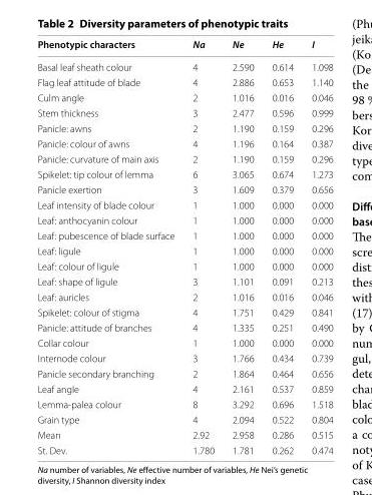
<table><thead><tr><td>Phenotypic characters</td><td>Na</td><td>Ne</td><td>He</td><td>I</td></tr></thead><tbody><tr><td>Basal leaf sheath colour</td><td>4</td><td>2.590</td><td>0.614</td><td>1.098</td></tr><tr><td>Flag leaf attitude of blade</td><td>4</td><td>2.886</td><td>0.653</td><td>1.140</td></tr><tr><td>Culm angle</td><td>2</td><td>1.016</td><td>0.016</td><td>0.046</td></tr><tr><td>Stem thickness</td><td>3</td><td>2.477</td><td>0.596</td><td>0.999</td></tr><tr><td>Panicle: awns</td><td>2</td><td>1.190</td><td>0.159</td><td>0.296</td></tr><tr><td>Panicle: colour of awns</td><td>4</td><td>1.196</td><td>0.164</td><td>0.387</td></tr><tr><td>Panicle: curvature of main axis</td><td>2</td><td>1.190</td><td>0.159</td><td>0.296</td></tr><tr><td>Spikelet: tip colour of lemma</td><td>6</td><td>3.065</td><td>0.674</td><td>1.273</td></tr><tr><td>Panicle exertion</td><td>3</td><td>1.609</td><td>0.379</td><td>0.656</td></tr><tr><td>Leaf intensity of blade colour</td><td>1</td><td>1.000</td><td>0.000</td><td>0.000</td></tr><tr><td>Leaf: anthocyanin colour</td><td>1</td><td>1.000</td><td>0.000</td><td>0.000</td></tr><tr><td>Leaf: pubescence of blade surface</td><td>1</td><td>1.000</td><td>0.000</td><td>0.000</td></tr><tr><td>Leaf: ligule</td><td>1</td><td>1.000</td><td>0.000</td><td>0.000</td></tr><tr><td>Leaf: colour of ligule</td><td>1</td><td>1.000</td><td>0.000</td><td>0.000</td></tr><tr><td>Leaf: shape of ligule</td><td>3</td><td>1.101</td><td>0.091</td><td>0.213</td></tr><tr><td>Leaf: auricles</td><td>2</td><td>1.016</td><td>0.016</td><td>0.046</td></tr><tr><td>Spikelet: colour of stigma</td><td>4</td><td>1.751</td><td>0.429</td><td>0.841</td></tr><tr><td>Panicle: attitude of branches</td><td>4</td><td>1.335</td><td>0.251</td><td>0.490</td></tr><tr><td>Collar colour</td><td>1</td><td>1.000</td><td>0.000</td><td>0.000</td></tr><tr><td>Internode colour</td><td>3</td><td>1.766</td><td>0.434</td><td>0.739</td></tr><tr><td>Panicle secondary branching</td><td>2</td><td>1.864</td><td>0.464</td><td>0.656</td></tr><tr><td>Leaf angle</td><td>4</td><td>2.161</td><td>0.537</td><td>0.859</td></tr><tr><td>Lemma-palea colour</td><td>8</td><td>3.292</td><td>0.696</td><td>1.518</td></tr><tr><td>Grain type</td><td>4</td><td>2.094</td><td>0.522</td><td>0.804</td></tr><tr><td>Mean</td><td>2.92</td><td>2.958</td><td>0.286</td><td>0.515</td></tr><tr><td>St. Dev.</td><td>1.780</td><td>1.781</td><td>0.262</td><td>0.474</td></tr></tbody></table>